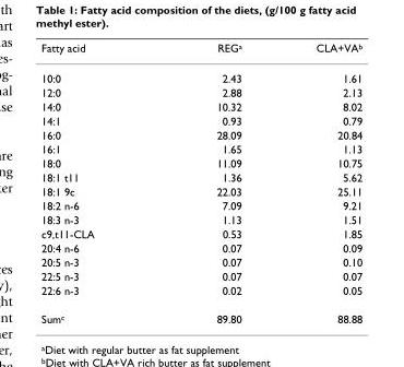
<table><thead><tr><td>Fatty acid</td><td>REG<sup>a</sup></td><td>CLA+VA<sup>b</sup></td></tr></thead><tbody><tr><td>10:0</td><td>2.43</td><td>1.61</td></tr><tr><td>12:0</td><td>2.88</td><td>2.13</td></tr><tr><td>14:0</td><td>10.32</td><td>8.02</td></tr><tr><td>14:1</td><td>0.93</td><td>0.79</td></tr><tr><td>16:0</td><td>28.09</td><td>20.84</td></tr><tr><td>16:1</td><td>1.65</td><td>1.13</td></tr><tr><td>18:0</td><td>11.09</td><td>10.75</td></tr><tr><td>18:1 t11</td><td>1.36</td><td>5.62</td></tr><tr><td>18:1 9c</td><td>22.03</td><td>25.11</td></tr><tr><td>18:2 n-6</td><td>7.09</td><td>9.21</td></tr><tr><td>18:3 n-3</td><td>1.13</td><td>1.51</td></tr><tr><td>c9,t11-CLA</td><td>0.53</td><td>1.85</td></tr><tr><td>20:4 n-6</td><td>0.07</td><td>0.09</td></tr><tr><td>20:5 n-3</td><td>0.07</td><td>0.10</td></tr><tr><td>22:5 n-3</td><td>0.07</td><td>0.07</td></tr><tr><td>22:6 n-3</td><td>0.02</td><td>0.05</td></tr><tr><td>Sum<sup>c</sup></td><td>89.80</td><td>88.88</td></tr></tbody></table>